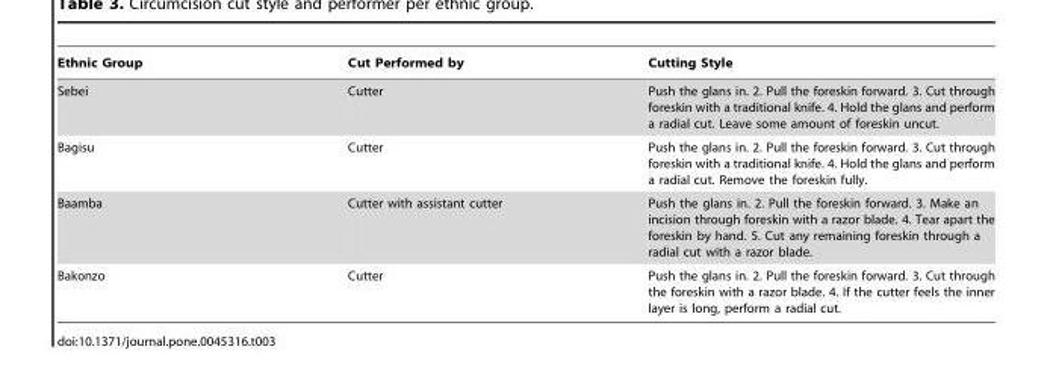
<table><thead><tr><td>Ethnic Group</td><td>Cut Performed by</td><td>Cutting Style</td></tr></thead><tbody><tr><td>Sebei</td><td>Cutter</td><td>Push the glans in. 2. Pull the foreskin forward. 3. Cut through foreskin with a traditional knife. 4. Hold the glans and perform a radial cut. Leave some amount of foreskin uncut.</td></tr><tr><td>Bagisu</td><td>Cutter</td><td>Push the glans in. 2. Pull the foreskin forward. 3. Cut through foreskin with a traditional knife. 4. Hold the glans and perform a radial cut. Remove the foreskin fully.</td></tr><tr><td>Baamba</td><td>Cutter with assistant cutter</td><td>Push the glans in. 2. Pull the foreskin forward. 3. Make an incision through foreskin with a razor blade. 4. Tear apart the foreskin by hand. 5. Cut any remaining foreskin through a radial cut with a razor blade.</td></tr><tr><td>Bakonzo</td><td>Cutter</td><td>Push the glans in. 2. Pull the foreskin forward. 3. Cut through the foreskin with a razor blade. 4. If the cutter feels the inner layer is long, perform a radial cut.</td></tr></tbody></table>